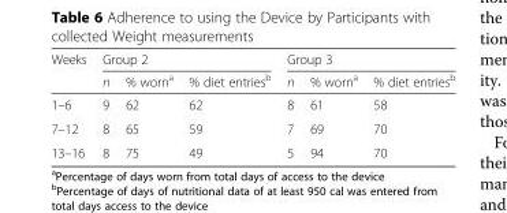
<table><thead><tr><td rowspan="2">Weeks</td><td colspan="3">Group 2</td><td colspan="3">Group 3</td></tr><tr><td>n</td><td>% worn<sup>a</sup></td><td>% diet entries<sup>b</sup></td><td>n</td><td>% worn<sup>a</sup></td><td>% diet entries<sup>b</sup></td></tr></thead><tbody><tr><td>1–6</td><td>9</td><td>62</td><td>62</td><td>8</td><td>61</td><td>58</td></tr><tr><td>7–12</td><td>8</td><td>65</td><td>59</td><td>7</td><td>69</td><td>70</td></tr><tr><td>13–16</td><td>8</td><td>75</td><td>49</td><td>5</td><td>94</td><td>70</td></tr></tbody></table>